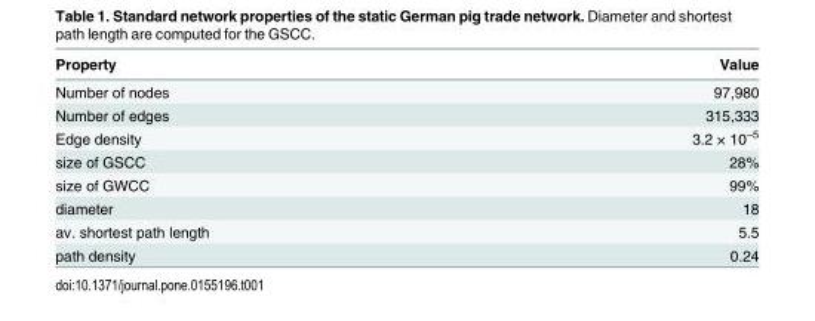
<table><thead><tr><td>Property</td><td>Value</td></tr></thead><tbody><tr><td>Number of nodes</td><td>97,980</td></tr><tr><td>Number of edges</td><td>315,333</td></tr><tr><td>Edge density</td><td>3.2 × 10<sup>−5</sup></td></tr><tr><td>size of GSCC</td><td>28%</td></tr><tr><td>size of GWCC</td><td>99%</td></tr><tr><td>diameter</td><td>18</td></tr><tr><td>av. shortest path length</td><td>5.5</td></tr><tr><td>path density</td><td>0.24</td></tr></tbody></table>